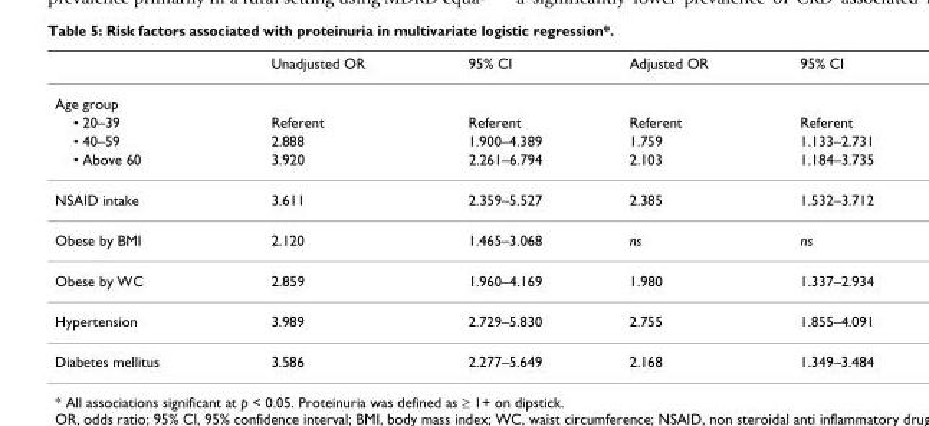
<table><thead><tr><td></td><td>Unadjusted OR</td><td>95% CI</td><td>Adjusted OR</td><td>95% CI</td></tr></thead><tbody><tr><td colspan="5">Age group</td></tr><tr><td>• 20–39</td><td>Referent</td><td>Referent</td><td>Referent</td><td>Referent</td></tr><tr><td>• 40–59</td><td>2.888</td><td>1.900–4.389</td><td>1.759</td><td>1.133–2.731</td></tr><tr><td>• Above 60</td><td>3.920</td><td>2.261–6.794</td><td>2.103</td><td>1.184–3.735</td></tr><tr><td>NSAID intake</td><td>3.611</td><td>2.359–5.527</td><td>2.385</td><td>1.532–3.712</td></tr><tr><td>Obese by BMI</td><td>2.120</td><td>1.465–3.068</td><td>ns</td><td>ns</td></tr><tr><td>Obese by WC</td><td>2.859</td><td>1.960–4.169</td><td>1.980</td><td>1.337–2.934</td></tr><tr><td>Hypertension</td><td>3.989</td><td>2.729–5.830</td><td>2.755</td><td>1.855–4.091</td></tr><tr><td>Diabetes mellitus</td><td>3.586</td><td>2.277–5.649</td><td>2.168</td><td>1.349–3.484</td></tr></tbody></table>